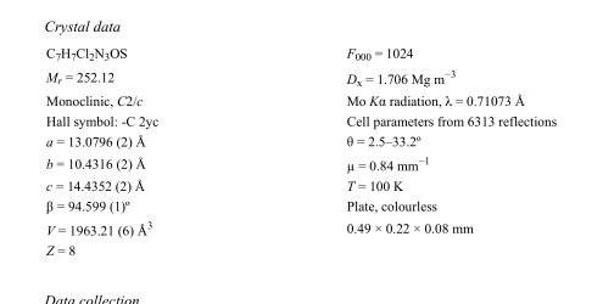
<table><tbody><tr><td>C<sub>7</sub>H<sub>7</sub>Cl<sub>2</sub>N<sub>3</sub>OS</td><td>F000 = 1024</td></tr><tr><td>M<sub>r</sub> = 252.12</td><td>D<sub>x</sub> = 1.706 Mg m<sup>−3</sup></td></tr><tr><td>Monoclinic, C2/c</td><td>Mo Kα radiation, λ = 0.71073 Å</td></tr><tr><td>Hall symbol: -C 2yc</td><td>Cell parameters from 6313 reflections</td></tr><tr><td>a = 13.0796 (2) Å</td><td>θ = 2.5–33.2º</td></tr><tr><td>b = 10.4316 (2) Å</td><td>µ = 0.84 mm<sup>−1</sup></td></tr><tr><td>c = 14.4352 (2) Å</td><td>T = 100 K</td></tr><tr><td>β = 94.599 (1)º</td><td>Plate, colourless</td></tr><tr><td>V = 1963.21 (6) Å<sup>3</sup></td><td>0.49 × 0.22 × 0.08 mm</td></tr><tr><td>Z = 8</td><td></td></tr></tbody></table>